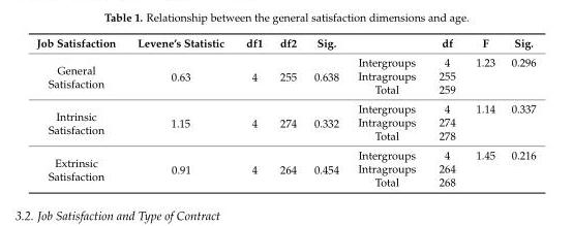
<table><thead><tr><td>Job Satisfaction</td><td>Levene’s Statistic</td><td>df1</td><td>df2</td><td>Sig.</td><td></td><td>df</td><td>F</td><td>Sig.</td></tr></thead><tbody><tr><td rowspan="3">General Satisfaction</td><td rowspan="3">0.63</td><td rowspan="3">4</td><td rowspan="3">255</td><td rowspan="3">0.638</td><td>Intergroups</td><td>4</td><td>1.23</td><td>0.296</td></tr><tr><td>Intragroups</td><td>255</td><td></td><td></td></tr><tr><td>Total</td><td>259</td><td></td><td></td></tr><tr><td rowspan="3">Intrinsic Satisfaction</td><td rowspan="3">1.15</td><td rowspan="3">4</td><td rowspan="3">274</td><td rowspan="3">0.332</td><td>Intergroups</td><td>4</td><td>1.14</td><td>0.337</td></tr><tr><td>Intragroups</td><td>274</td><td></td><td></td></tr><tr><td>Total</td><td>278</td><td></td><td></td></tr><tr><td rowspan="3">Extrinsic Satisfaction</td><td rowspan="3">0.91</td><td rowspan="3">4</td><td rowspan="3">264</td><td rowspan="3">0.454</td><td>Intergroups</td><td>4</td><td>1.45</td><td>0.216</td></tr><tr><td>Intragroups</td><td>264</td><td></td><td></td></tr><tr><td>Total</td><td>268</td><td></td><td></td></tr></tbody></table>